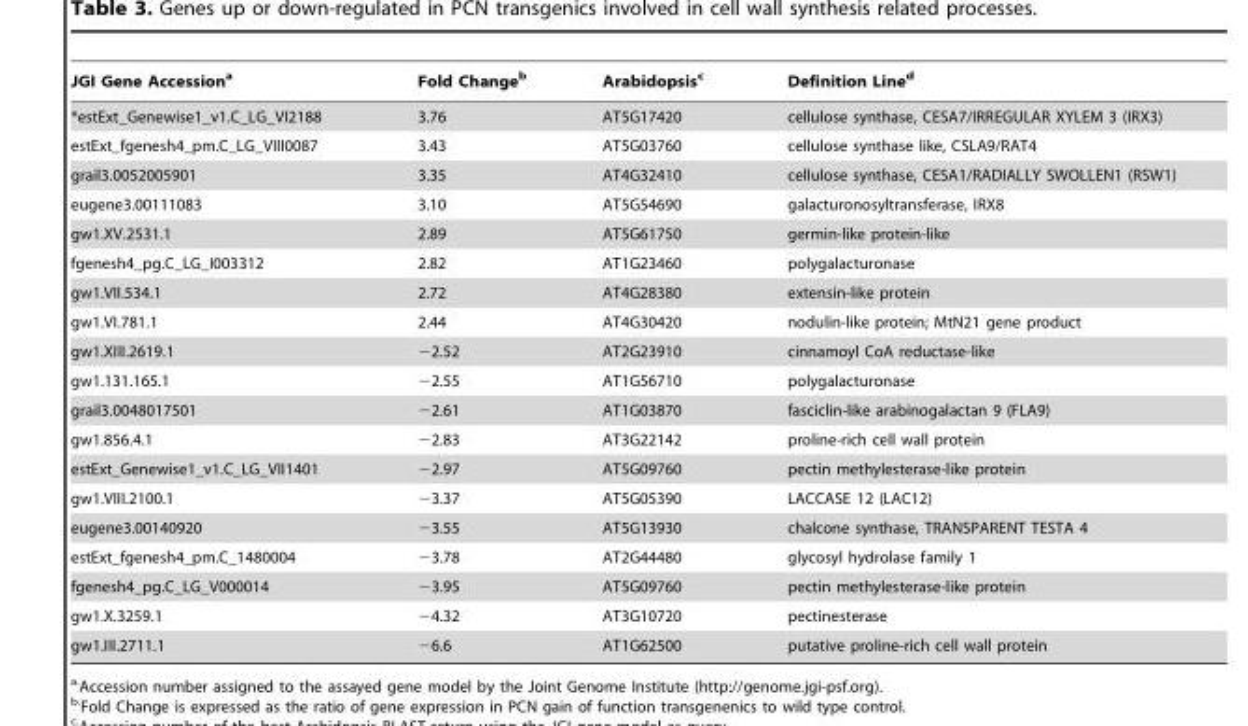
<table><thead><tr><td>JGI Gene Accession<sup>a</sup></td><td>Fold Change<sup>b</sup></td><td>Arabidopsis<sup>c</sup></td><td>Definition Line<sup>d</sup></td></tr></thead><tbody><tr><td>*estExt_Genewise1_v1.C_LG_VI2188</td><td>3.76</td><td>AT5G17420</td><td>cellulose synthase, CESA7/IRREGULAR XYLEM 3 (IRX3)</td></tr><tr><td>estExt_fgenesh4_pm.C_LG_VIII0087</td><td>3.43</td><td>AT5G03760</td><td>cellulose synthase like, CSLA9/RAT4</td></tr><tr><td>grail3.0052005901</td><td>3.35</td><td>AT4G32410</td><td>cellulose synthase, CESA1/RADIALLY SWOLLEN1 (RSW1)</td></tr><tr><td>eugene3.00111083</td><td>3.10</td><td>AT5G54690</td><td>galacturonosyltransferase, IRX8</td></tr><tr><td>gw1.XV.2531.1</td><td>2.89</td><td>AT5G61750</td><td>germin-like protein-like</td></tr><tr><td>fgenesh4_pg.C_LG_I003312</td><td>2.82</td><td>AT1G23460</td><td>polygalacturonase</td></tr><tr><td>gw1.VII.534.1</td><td>2.72</td><td>AT4G28380</td><td>extensin-like protein</td></tr><tr><td>gw1.VI.781.1</td><td>2.44</td><td>AT4G30420</td><td>nodulin-like protein; MtN21 gene product</td></tr><tr><td>gw1.XIII.2619.1</td><td>−2.52</td><td>AT2G23910</td><td>cinnamoyl CoA reductase-like</td></tr><tr><td>gw1.131.165.1</td><td>−2.55</td><td>AT1G56710</td><td>polygalacturonase</td></tr><tr><td>grail3.0048017501</td><td>−2.61</td><td>AT1G03870</td><td>fasciclin-like arabinogalactan 9 (FLA9)</td></tr><tr><td>gw1.856.4.1</td><td>−2.83</td><td>AT3G22142</td><td>proline-rich cell wall protein</td></tr><tr><td>estExt_Genewise1_v1.C_LG_VII1401</td><td>−2.97</td><td>AT5G09760</td><td>pectin methylesterase-like protein</td></tr><tr><td>gw1.VIII.2100.1</td><td>−3.37</td><td>AT5G05390</td><td>LACCASE 12 (LAC12)</td></tr><tr><td>eugene3.00140920</td><td>−3.55</td><td>AT5G13930</td><td>chalcone synthase, TRANSPARENT TESTA 4</td></tr><tr><td>estExt_fgenesh4_pm.C_1480004</td><td>−3.78</td><td>AT2G44480</td><td>glycosyl hydrolase family 1</td></tr><tr><td>fgenesh4_pg.C_LG_V000014</td><td>−3.95</td><td>AT5G09760</td><td>pectin methylesterase-like protein</td></tr><tr><td>gw1.X.3259.1</td><td>−4.32</td><td>AT3G10720</td><td>pectinesterase</td></tr><tr><td>gw1.III.2711.1</td><td>−6.6</td><td>AT1G62500</td><td>putative proline-rich cell wall protein</td></tr></tbody></table>